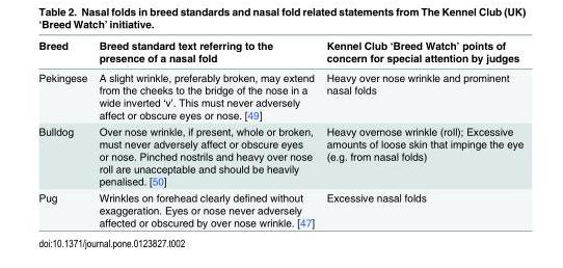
<table><thead><tr><td>Breed</td><td>Breed standard text referring to the presence of a nasal fold</td><td>Kennel Club ‘Breed Watch’ points of concern for special attention by judges</td></tr></thead><tbody><tr><td>Pekingese</td><td>A slight wrinkle, preferably broken, may extend from the cheeks to the bridge of the nose in a wide inverted ‘v’. This must never adversely affect or obscure eyes or nose. [49]</td><td>Heavy over nose wrinkle and prominent nasal folds</td></tr><tr><td>Bulldog</td><td>Over nose wrinkle, if present, whole or broken, must never adversely affect or obscure eyes or nose. Pinched nostrils and heavy over nose roll are unacceptable and should be heavily penalised. [50]</td><td>Heavy overnose wrinkle (roll); Excessive amounts of loose skin that impinge the eye (e.g. from nasal folds)</td></tr><tr><td>Pug</td><td>Wrinkles on forehead clearly defined without exaggeration. Eyes or nose never adversely affected or obscured by over nose wrinkle. [47]</td><td>Excessive nasal folds</td></tr></tbody></table>